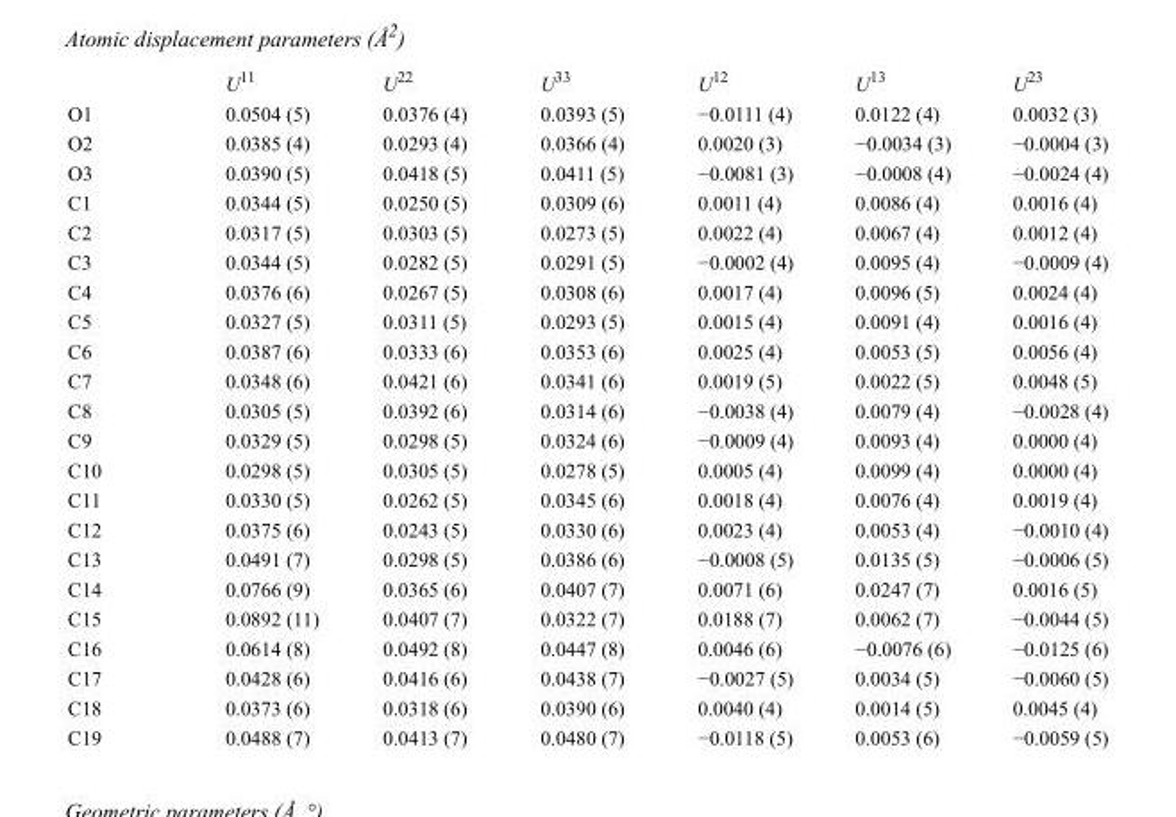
<table><thead><tr><td></td><td>U<sup>11</sup></td><td>U<sup>22</sup></td><td>U<sup>33</sup></td><td>U<sup>12</sup></td><td>U<sup>13</sup></td><td>U<sup>23</sup></td></tr></thead><tbody><tr><td>O1</td><td>0.0504 (5)</td><td>0.0376 (4)</td><td>0.0393 (5)</td><td>−0.0111 (4)</td><td>0.0122 (4)</td><td>0.0032 (3)</td></tr><tr><td>O2</td><td>0.0385 (4)</td><td>0.0293 (4)</td><td>0.0366 (4)</td><td>0.0020 (3)</td><td>−0.0034 (3)</td><td>−0.0004 (3)</td></tr><tr><td>O3</td><td>0.0390 (5)</td><td>0.0418 (5)</td><td>0.0411 (5)</td><td>−0.0081 (3)</td><td>−0.0008 (4)</td><td>−0.0024 (4)</td></tr><tr><td>C1</td><td>0.0344 (5)</td><td>0.0250 (5)</td><td>0.0309 (6)</td><td>0.0011 (4)</td><td>0.0086 (4)</td><td>0.0016 (4)</td></tr><tr><td>C2</td><td>0.0317 (5)</td><td>0.0303 (5)</td><td>0.0273 (5)</td><td>0.0022 (4)</td><td>0.0067 (4)</td><td>0.0012 (4)</td></tr><tr><td>C3</td><td>0.0344 (5)</td><td>0.0282 (5)</td><td>0.0291 (5)</td><td>−0.0002 (4)</td><td>0.0095 (4)</td><td>−0.0009 (4)</td></tr><tr><td>C4</td><td>0.0376 (6)</td><td>0.0267 (5)</td><td>0.0308 (6)</td><td>0.0017 (4)</td><td>0.0096 (5)</td><td>0.0024 (4)</td></tr><tr><td>C5</td><td>0.0327 (5)</td><td>0.0311 (5)</td><td>0.0293 (5)</td><td>0.0015 (4)</td><td>0.0091 (4)</td><td>0.0016 (4)</td></tr><tr><td>C6</td><td>0.0387 (6)</td><td>0.0333 (6)</td><td>0.0353 (6)</td><td>0.0025 (4)</td><td>0.0053 (5)</td><td>0.0056 (4)</td></tr><tr><td>C7</td><td>0.0348 (6)</td><td>0.0421 (6)</td><td>0.0341 (6)</td><td>0.0019 (5)</td><td>0.0022 (5)</td><td>0.0048 (5)</td></tr><tr><td>C8</td><td>0.0305 (5)</td><td>0.0392 (6)</td><td>0.0314 (6)</td><td>−0.0038 (4)</td><td>0.0079 (4)</td><td>−0.0028 (4)</td></tr><tr><td>C9</td><td>0.0329 (5)</td><td>0.0298 (5)</td><td>0.0324 (6)</td><td>−0.0009 (4)</td><td>0.0093 (4)</td><td>0.0000 (4)</td></tr><tr><td>C10</td><td>0.0298 (5)</td><td>0.0305 (5)</td><td>0.0278 (5)</td><td>0.0005 (4)</td><td>0.0099 (4)</td><td>0.0000 (4)</td></tr><tr><td>C11</td><td>0.0330 (5)</td><td>0.0262 (5)</td><td>0.0345 (6)</td><td>0.0018 (4)</td><td>0.0076 (4)</td><td>0.0019 (4)</td></tr><tr><td>C12</td><td>0.0375 (6)</td><td>0.0243 (5)</td><td>0.0330 (6)</td><td>0.0023 (4)</td><td>0.0053 (4)</td><td>−0.0010 (4)</td></tr><tr><td>C13</td><td>0.0491 (7)</td><td>0.0298 (5)</td><td>0.0386 (6)</td><td>−0.0008 (5)</td><td>0.0135 (5)</td><td>−0.0006 (5)</td></tr><tr><td>C14</td><td>0.0766 (9)</td><td>0.0365 (6)</td><td>0.0407 (7)</td><td>0.0071 (6)</td><td>0.0247 (7)</td><td>0.0016 (5)</td></tr><tr><td>C15</td><td>0.0892 (11)</td><td>0.0407 (7)</td><td>0.0322 (7)</td><td>0.0188 (7)</td><td>0.0062 (7)</td><td>−0.0044 (5)</td></tr><tr><td>C16</td><td>0.0614 (8)</td><td>0.0492 (8)</td><td>0.0447 (8)</td><td>0.0046 (6)</td><td>−0.0076 (6)</td><td>−0.0125 (6)</td></tr><tr><td>C17</td><td>0.0428 (6)</td><td>0.0416 (6)</td><td>0.0438 (7)</td><td>−0.0027 (5)</td><td>0.0034 (5)</td><td>−0.0060 (5)</td></tr><tr><td>C18</td><td>0.0373 (6)</td><td>0.0318 (6)</td><td>0.0390 (6)</td><td>0.0040 (4)</td><td>0.0014 (5)</td><td>0.0045 (4)</td></tr><tr><td>C19</td><td>0.0488 (7)</td><td>0.0413 (7)</td><td>0.0480 (7)</td><td>−0.0118 (5)</td><td>0.0053 (6)</td><td>−0.0059 (5)</td></tr></tbody></table>